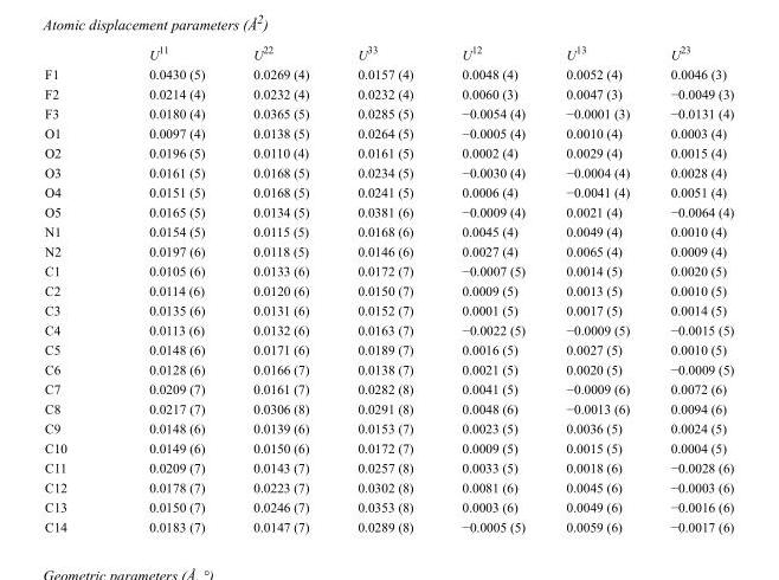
<table><thead><tr><td></td><td>U<sup>11</sup></td><td>U<sup>22</sup></td><td>U<sup>33</sup></td><td>U<sup>12</sup></td><td>U<sup>13</sup></td><td>U<sup>23</sup></td></tr></thead><tbody><tr><td>F1</td><td>0.0430 (5)</td><td>0.0269 (4)</td><td>0.0157 (4)</td><td>0.0048 (4)</td><td>0.0052 (4)</td><td>0.0046 (3)</td></tr><tr><td>F2</td><td>0.0214 (4)</td><td>0.0232 (4)</td><td>0.0232 (4)</td><td>0.0060 (3)</td><td>0.0047 (3)</td><td>−0.0049 (3)</td></tr><tr><td>F3</td><td>0.0180 (4)</td><td>0.0365 (5)</td><td>0.0285 (5)</td><td>−0.0054 (4)</td><td>−0.0001 (3)</td><td>−0.0131 (4)</td></tr><tr><td>O1</td><td>0.0097 (4)</td><td>0.0138 (5)</td><td>0.0264 (5)</td><td>−0.0005 (4)</td><td>0.0010 (4)</td><td>0.0003 (4)</td></tr><tr><td>O2</td><td>0.0196 (5)</td><td>0.0110 (4)</td><td>0.0161 (5)</td><td>0.0002 (4)</td><td>0.0029 (4)</td><td>0.0015 (4)</td></tr><tr><td>O3</td><td>0.0161 (5)</td><td>0.0168 (5)</td><td>0.0234 (5)</td><td>−0.0030 (4)</td><td>−0.0004 (4)</td><td>0.0028 (4)</td></tr><tr><td>O4</td><td>0.0151 (5)</td><td>0.0168 (5)</td><td>0.0241 (5)</td><td>0.0006 (4)</td><td>−0.0041 (4)</td><td>0.0051 (4)</td></tr><tr><td>O5</td><td>0.0165 (5)</td><td>0.0134 (5)</td><td>0.0381 (6)</td><td>−0.0009 (4)</td><td>0.0021 (4)</td><td>−0.0064 (4)</td></tr><tr><td>N1</td><td>0.0154 (5)</td><td>0.0115 (5)</td><td>0.0168 (6)</td><td>0.0045 (4)</td><td>0.0049 (4)</td><td>0.0010 (4)</td></tr><tr><td>N2</td><td>0.0197 (6)</td><td>0.0118 (5)</td><td>0.0146 (6)</td><td>0.0027 (4)</td><td>0.0065 (4)</td><td>0.0009 (4)</td></tr><tr><td>C1</td><td>0.0105 (6)</td><td>0.0133 (6)</td><td>0.0172 (7)</td><td>−0.0007 (5)</td><td>0.0014 (5)</td><td>0.0020 (5)</td></tr><tr><td>C2</td><td>0.0114 (6)</td><td>0.0120 (6)</td><td>0.0150 (7)</td><td>0.0009 (5)</td><td>0.0013 (5)</td><td>0.0010 (5)</td></tr><tr><td>C3</td><td>0.0135 (6)</td><td>0.0131 (6)</td><td>0.0152 (7)</td><td>0.0001 (5)</td><td>0.0017 (5)</td><td>0.0014 (5)</td></tr><tr><td>C4</td><td>0.0113 (6)</td><td>0.0132 (6)</td><td>0.0163 (7)</td><td>−0.0022 (5)</td><td>−0.0009 (5)</td><td>−0.0015 (5)</td></tr><tr><td>C5</td><td>0.0148 (6)</td><td>0.0171 (6)</td><td>0.0189 (7)</td><td>0.0016 (5)</td><td>0.0027 (5)</td><td>0.0010 (5)</td></tr><tr><td>C6</td><td>0.0128 (6)</td><td>0.0166 (7)</td><td>0.0138 (7)</td><td>0.0021 (5)</td><td>0.0020 (5)</td><td>−0.0009 (5)</td></tr><tr><td>C7</td><td>0.0209 (7)</td><td>0.0161 (7)</td><td>0.0282 (8)</td><td>0.0041 (5)</td><td>−0.0009 (6)</td><td>0.0072 (6)</td></tr><tr><td>C8</td><td>0.0217 (7)</td><td>0.0306 (8)</td><td>0.0291 (8)</td><td>0.0048 (6)</td><td>−0.0013 (6)</td><td>0.0094 (6)</td></tr><tr><td>C9</td><td>0.0148 (6)</td><td>0.0139 (6)</td><td>0.0153 (7)</td><td>0.0023 (5)</td><td>0.0036 (5)</td><td>0.0024 (5)</td></tr><tr><td>C10</td><td>0.0149 (6)</td><td>0.0150 (6)</td><td>0.0172 (7)</td><td>0.0009 (5)</td><td>0.0015 (5)</td><td>0.0004 (5)</td></tr><tr><td>C11</td><td>0.0209 (7)</td><td>0.0143 (7)</td><td>0.0257 (8)</td><td>0.0033 (5)</td><td>0.0018 (6)</td><td>−0.0028 (6)</td></tr><tr><td>C12</td><td>0.0178 (7)</td><td>0.0223 (7)</td><td>0.0302 (8)</td><td>0.0081 (6)</td><td>0.0045 (6)</td><td>−0.0003 (6)</td></tr><tr><td>C13</td><td>0.0150 (7)</td><td>0.0246 (7)</td><td>0.0353 (8)</td><td>0.0003 (6)</td><td>0.0049 (6)</td><td>−0.0016 (6)</td></tr><tr><td>C14</td><td>0.0183 (7)</td><td>0.0147 (7)</td><td>0.0289 (8)</td><td>−0.0005 (5)</td><td>0.0059 (6)</td><td>−0.0017 (6)</td></tr></tbody></table>